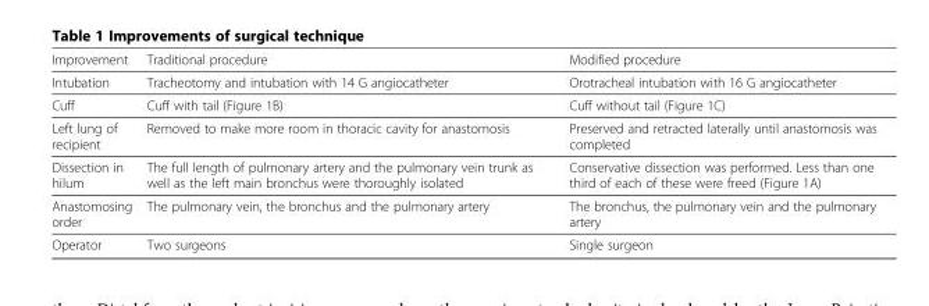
<table><thead><tr><td>Improvement</td><td>Traditional procedure</td><td>Modified procedure</td></tr></thead><tbody><tr><td>Intubation</td><td>Tracheotomy and intubation with 14 G angiocatheter</td><td>Orotracheal intubation with 16 G angiocatheter</td></tr><tr><td>Cuff</td><td>Cuff with tail (Figure 1B)</td><td>Cuff without tail (Figure 1C)</td></tr><tr><td>Left lung of recipient</td><td>Removed to make more room in thoracic cavity for anastomosis</td><td>Preserved and retracted laterally until anastomosis was completed</td></tr><tr><td>Dissection in hilum</td><td>The full length of pulmonary artery and the pulmonary vein trunk as well as the left main bronchus were thoroughly isolated</td><td>Conservative dissection was performed. Less than one third of each of these were freed (Figure 1A)</td></tr><tr><td>Anastomosing order</td><td>The pulmonary vein, the bronchus and the pulmonary artery</td><td>The bronchus, the pulmonary vein and the pulmonary artery</td></tr><tr><td>Operator</td><td>Two surgeons</td><td>Single surgeon</td></tr></tbody></table>